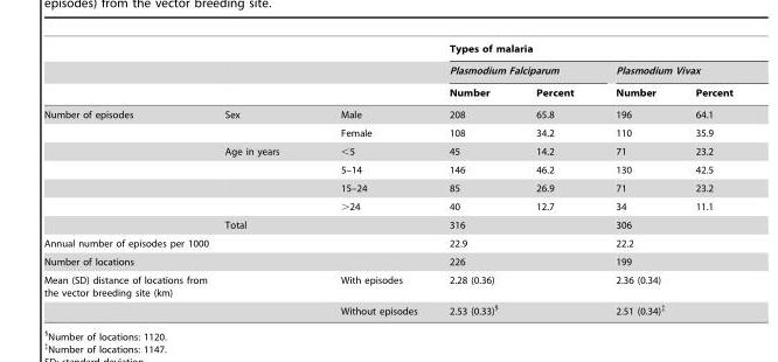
<table><thead><tr><td rowspan="3"></td><td rowspan="3"></td><td rowspan="3"></td><td colspan="4">Types of malaria</td></tr><tr><td colspan="2">Plasmodium Falciparum</td><td colspan="2">Plasmodium Vivax</td></tr><tr><td>Number</td><td>Percent</td><td>Number</td><td>Percent</td></tr></thead><tbody><tr><td rowspan="7">Number of episodes</td><td>Sex</td><td>Male</td><td>208</td><td>65.8</td><td>196</td><td>64.1</td></tr><tr><td></td><td>Female</td><td>108</td><td>34.2</td><td>110</td><td>35.9</td></tr><tr><td>Age in years</td><td>&lt;5</td><td>45</td><td>14.2</td><td>71</td><td>23.2</td></tr><tr><td></td><td>5–14</td><td>146</td><td>46.2</td><td>130</td><td>42.5</td></tr><tr><td></td><td>15–24</td><td>85</td><td>26.9</td><td>71</td><td>23.2</td></tr><tr><td></td><td>&gt;24</td><td>40</td><td>12.7</td><td>34</td><td>11.1</td></tr><tr><td>Total</td><td></td><td colspan="2">316</td><td colspan="2">306</td></tr><tr><td colspan="3">Annual number of episodes per 1000</td><td colspan="2">22.9</td><td colspan="2">22.2</td></tr><tr><td colspan="2">Number of locations</td><td></td><td colspan="2">226</td><td colspan="2">199</td></tr><tr><td rowspan="2" colspan="2">Mean (SD) distance of locations from the vector breeding site (km)</td><td>With episodes</td><td colspan="2">2.28 (0.36)</td><td colspan="2">2.36 (0.34)</td></tr><tr><td>Without episodes</td><td colspan="2">2.53 (0.33)§</td><td colspan="2">2.51 (0.34)‡</td></tr></tbody></table>